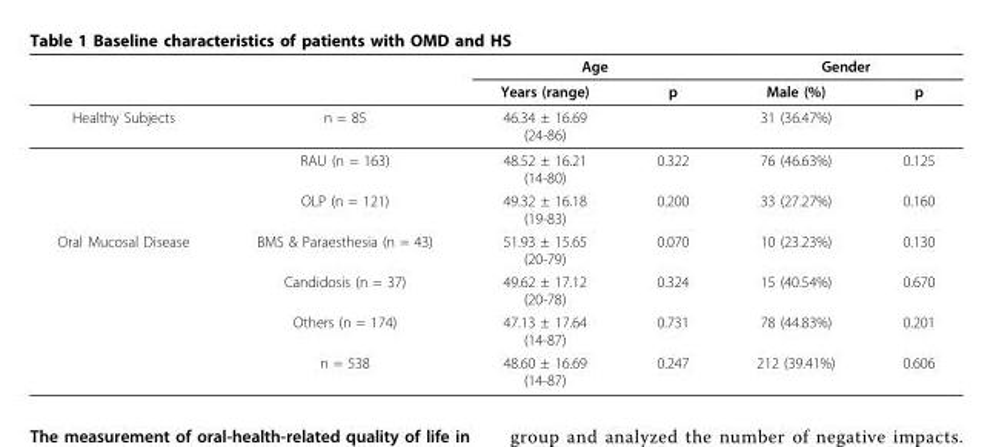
<table><thead><tr><td rowspan="2"></td><td rowspan="2"></td><td colspan="2">Age</td><td colspan="2">Gender</td></tr><tr><td>Years (range)</td><td>p</td><td>Male (%)</td><td>p</td></tr></thead><tbody><tr><td rowspan="3">Healthy Subjects</td><td>n = 85</td><td>46.34 ± 16.69 (24-86)</td><td></td><td>31 (36.47%)</td><td></td></tr><tr><td>RAU (n = 163)</td><td>48.52 ± 16.21 (14-80)</td><td>0.322</td><td>76 (46.63%)</td><td>0.125</td></tr><tr><td>OLP (n = 121)</td><td>49.32 ± 16.18 (19-83)</td><td>0.200</td><td>33 (27.27%)</td><td>0.160</td></tr><tr><td rowspan="4">Oral Mucosal Disease</td><td>BMS &amp; Paraesthesia (n = 43)</td><td>51.93 ± 15.65 (20-79)</td><td>0.070</td><td>10 (23.23%)</td><td>0.130</td></tr><tr><td>Candidosis (n = 37)</td><td>49.62 ± 17.12 (20-78)</td><td>0.324</td><td>15 (40.54%)</td><td>0.670</td></tr><tr><td>Others (n = 174)</td><td>47.13 ± 17.64 (14-87)</td><td>0.731</td><td>78 (44.83%)</td><td>0.201</td></tr><tr><td>n = 538</td><td>48.60 ± 16.69 (14-87)</td><td>0.247</td><td>212 (39.41%)</td><td>0.606</td></tr></tbody></table>